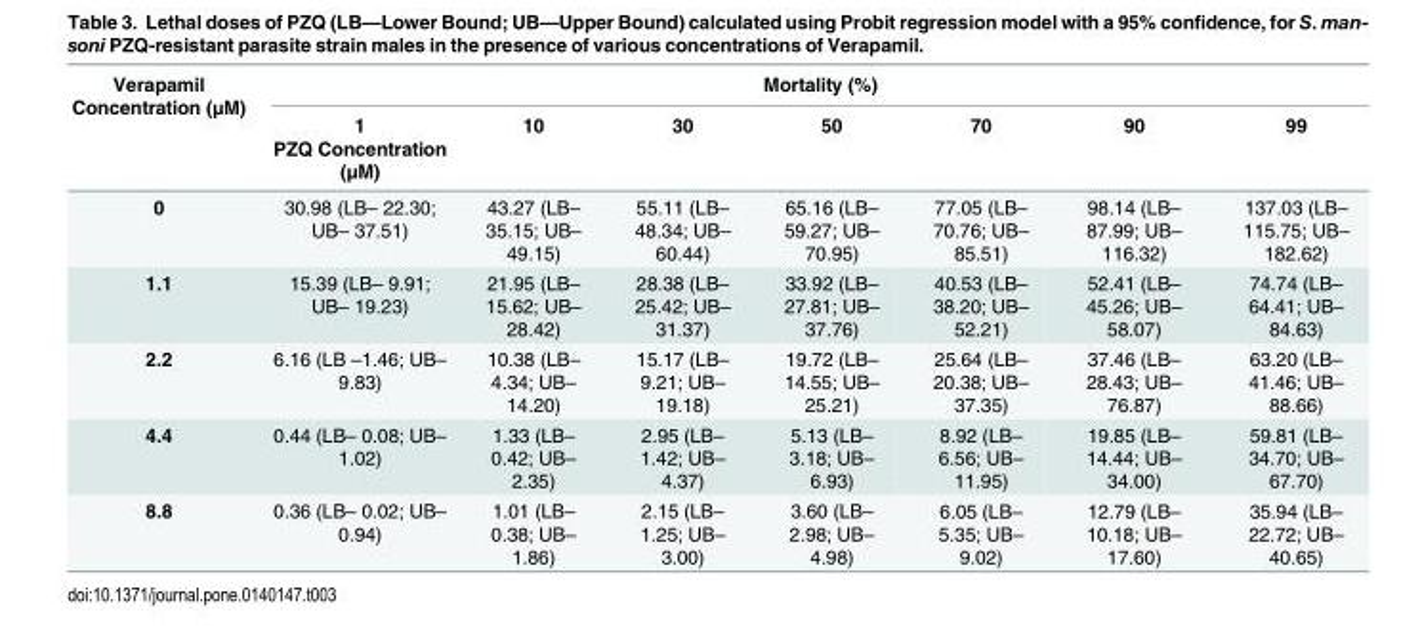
<table><thead><tr><td rowspan="3">Verapamil Concentration (μM)</td><td colspan="7">Mortality (%)</td></tr><tr><td rowspan="2">1 PZQ Concentration (μM)</td><td rowspan="2">10</td><td rowspan="2">30</td><td rowspan="2">50</td><td rowspan="2">70</td><td rowspan="2">90</td><td rowspan="2">99</td></tr><tr></tr></thead><tbody><tr><td>0</td><td>30.98 (LB– 22.30; UB– 37.51)</td><td>43.27 (LB– 35.15; UB– 49.15)</td><td>55.11 (LB– 48.34; UB– 60.44)</td><td>65.16 (LB– 59.27; UB– 70.95)</td><td>77.05 (LB– 70.76; UB– 85.51)</td><td>98.14 (LB– 87.99; UB– 116.32)</td><td>137.03 (LB– 115.75; UB– 182.62)</td></tr><tr><td>1.1</td><td>15.39 (LB– 9.91; UB– 19.23)</td><td>21.95 (LB– 15.62; UB– 28.42)</td><td>28.38 (LB– 25.42; UB– 31.37)</td><td>33.92 (LB– 27.81; UB– 37.76)</td><td>40.53 (LB– 38.20; UB– 52.21)</td><td>52.41 (LB– 45.26; UB– 58.07)</td><td>74.74 (LB– 64.41; UB– 84.63)</td></tr><tr><td>2.2</td><td>6.16 (LB –1.46; UB– 9.83)</td><td>10.38 (LB– 4.34; UB– 14.20)</td><td>15.17 (LB– 9.21; UB– 19.18)</td><td>19.72 (LB– 14.55; UB– 25.21)</td><td>25.64 (LB– 20.38; UB– 37.35)</td><td>37.46 (LB– 28.43; UB– 76.87)</td><td>63.20 (LB– 41.46; UB– 88.66)</td></tr><tr><td>4.4</td><td>0.44 (LB– 0.08; UB– 1.02)</td><td>1.33 (LB– 0.42; UB– 2.35)</td><td>2.95 (LB– 1.42; UB– 4.37)</td><td>5.13 (LB– 3.18; UB– 6.93)</td><td>8.92 (LB– 6.56; UB– 11.95)</td><td>19.85 (LB– 14.44; UB– 34.00)</td><td>59.81 (LB– 34.70; UB– 67.70)</td></tr><tr><td>8.8</td><td>0.36 (LB– 0.02; UB– 0.94)</td><td>1.01 (LB– 0.38; UB– 1.86)</td><td>2.15 (LB– 1.25; UB– 3.00)</td><td>3.60 (LB– 2.98; UB– 4.98)</td><td>6.05 (LB– 5.35; UB– 9.02)</td><td>12.79 (LB– 10.18; UB– 17.60)</td><td>35.94 (LB– 22.72; UB– 40.65)</td></tr></tbody></table>